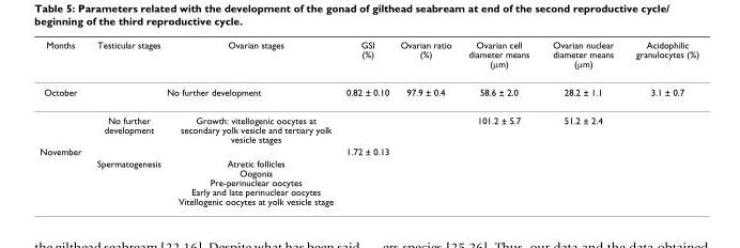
<table><thead><tr><td>Months</td><td>Testicular stages</td><td>Ovarian stages</td><td>GSI (%)</td><td>Ovarian ratio (%)</td><td>Ovarian cell diameter means (μm)</td><td>Ovarian nuclear diameter means (μm)</td><td>Acidophilic granulocytes (%)</td></tr></thead><tbody><tr><td rowspan="2">October</td><td colspan="2">No further development</td><td>0.82 ± 0.10</td><td>97.9 ± 0.4</td><td>58.6 ± 2.0</td><td>28.2 ± 1.1</td><td>3.1 ± 0.7</td></tr><tr><td>No further development</td><td>Growth: vitellogenic oocytes at secondary yolk vesicle and tertiary yolk vesicle stages</td><td></td><td></td><td>101.2 ± 5.7</td><td>51.2 ± 2.4</td><td></td></tr><tr><td rowspan="2">November</td><td colspan="2"></td><td>1.72 ± 0.13</td><td colspan="4"></td></tr><tr><td>Spermatogenesis</td><td>Atretic follicles Oogonia Pre-perinuclear oocytes Early and late perinuclear oocytes Vitellogenic oocytes at yolk vesicle stage</td><td></td><td></td><td></td><td></td><td></td></tr></tbody></table>